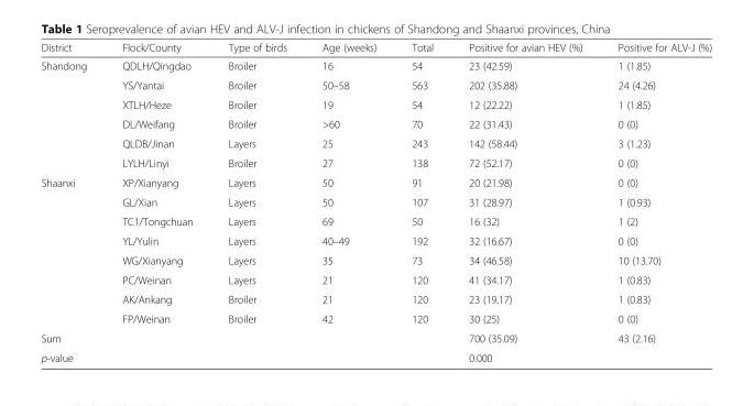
<table><thead><tr><td>District</td><td>Flock/County</td><td>Type of birds</td><td>Age (weeks)</td><td>Total</td><td>Positive for avian HEV (%)</td><td>Positive for ALV-J (%)</td></tr></thead><tbody><tr><td rowspan="6">Shandong</td><td>QDLH/Qingdao</td><td>Broiler</td><td>16</td><td>54</td><td>23 (42.59)</td><td>1 (1.85)</td></tr><tr><td>YS/Yantai</td><td>Broiler</td><td>50–58</td><td>563</td><td>202 (35.88)</td><td>24 (4.26)</td></tr><tr><td>XTLH/Heze</td><td>Broiler</td><td>19</td><td>54</td><td>12 (22.22)</td><td>1 (1.85)</td></tr><tr><td>DL/Weifang</td><td>Broiler</td><td>&gt;60</td><td>70</td><td>22 (31.43)</td><td>0 (0)</td></tr><tr><td>QLDB/Jinan</td><td>Layers</td><td>25</td><td>243</td><td>142 (58.44)</td><td>3 (1.23)</td></tr><tr><td>LYLH/Linyi</td><td>Broiler</td><td>27</td><td>138</td><td>72 (52.17)</td><td>0 (0)</td></tr><tr><td rowspan="8">Shaanxi</td><td>XP/Xianyang</td><td>Layers</td><td>50</td><td>91</td><td>20 (21.98)</td><td>0 (0)</td></tr><tr><td>GL/Xian</td><td>Layers</td><td>50</td><td>107</td><td>31 (28.97)</td><td>1 (0.93)</td></tr><tr><td>TC1/Tongchuan</td><td>Layers</td><td>69</td><td>50</td><td>16 (32)</td><td>1 (2)</td></tr><tr><td>YL/Yulin</td><td>Layers</td><td>40–49</td><td>192</td><td>32 (16.67)</td><td>0 (0)</td></tr><tr><td>WG/Xianyang</td><td>Layers</td><td>35</td><td>73</td><td>34 (46.58)</td><td>10 (13.70)</td></tr><tr><td>PC/Weinan</td><td>Layers</td><td>21</td><td>120</td><td>41 (34.17)</td><td>1 (0.83)</td></tr><tr><td>AK/Ankang</td><td>Broiler</td><td>21</td><td>120</td><td>23 (19.17)</td><td>1 (0.83)</td></tr><tr><td>FP/Weinan</td><td>Broiler</td><td>42</td><td>120</td><td>30 (25)</td><td>0 (0)</td></tr><tr><td colspan="5">Sum</td><td>700 (35.09)</td><td>43 (2.16)</td></tr><tr><td colspan="5">p-value</td><td colspan="2">0.000</td></tr></tbody></table>